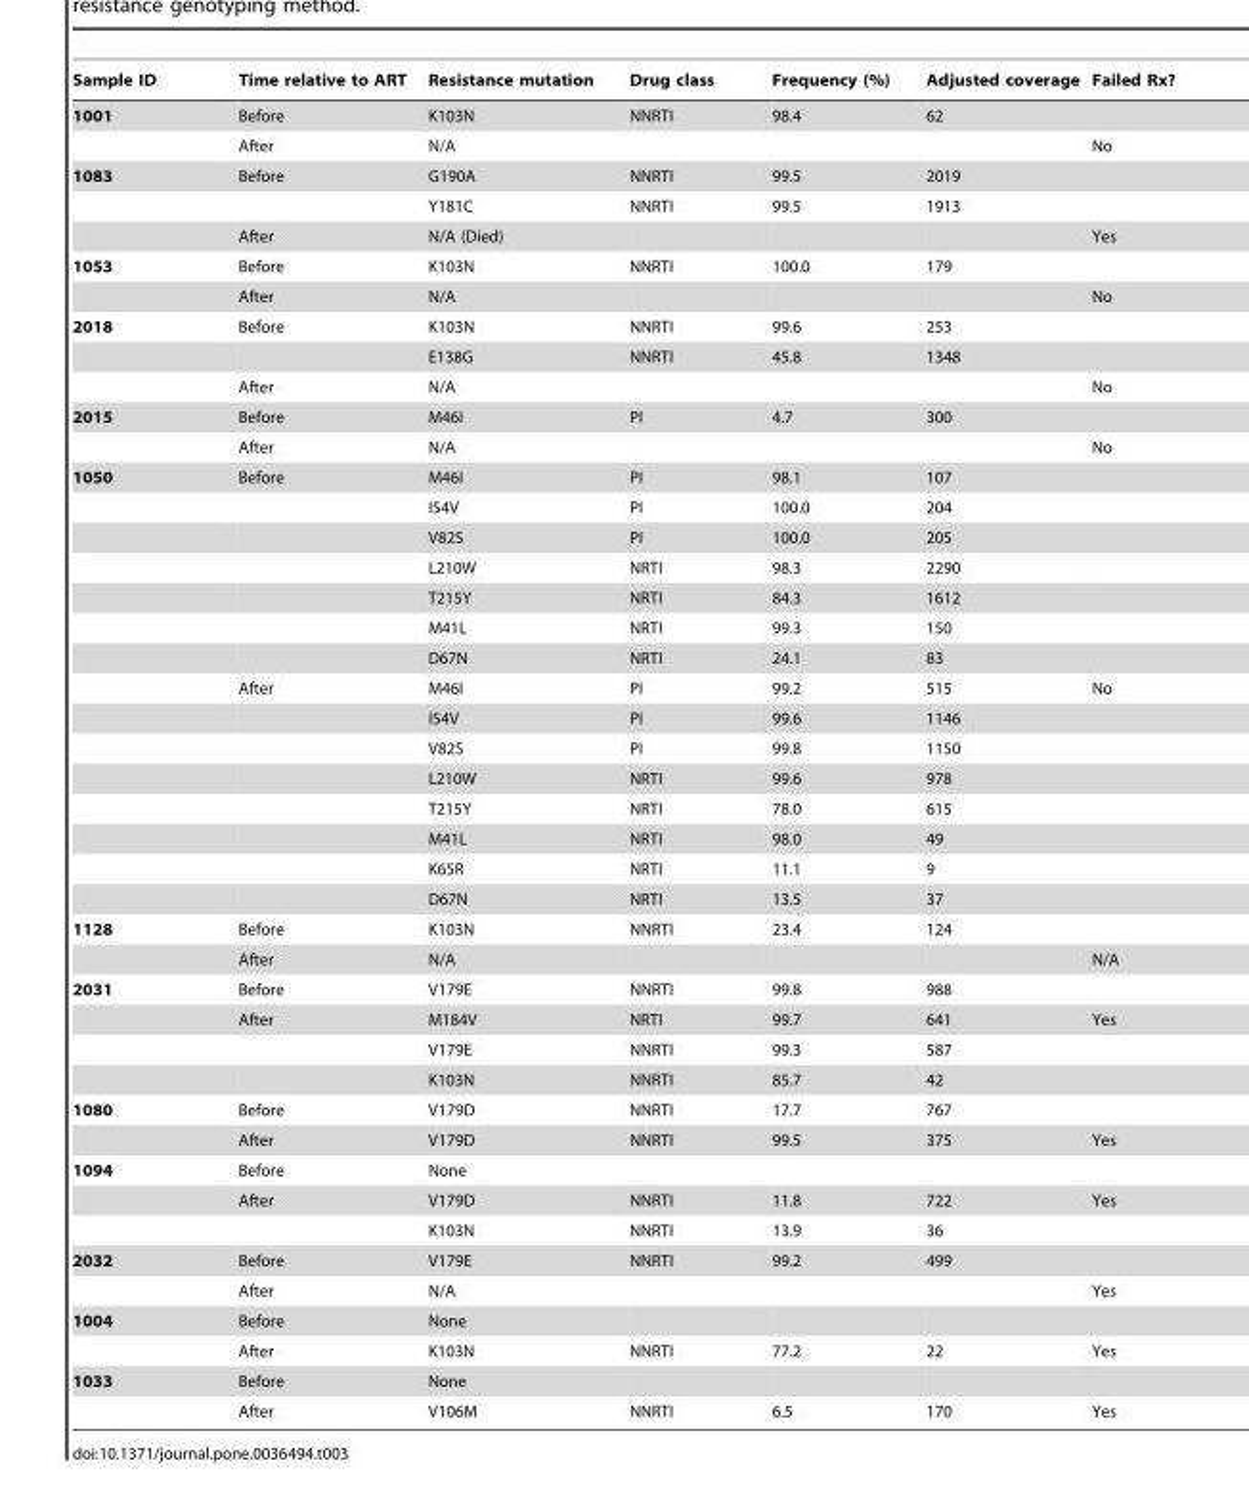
<table><thead><tr><td>Sample ID</td><td>Time relative to ART</td><td>Resistance mutation</td><td>Drug class</td><td>Frequency (%)</td><td>Adjusted coverage</td><td>Failed Rx?</td></tr></thead><tbody><tr><td rowspan="2">1001</td><td>Before</td><td>K103N</td><td>NNRTI</td><td>98.4</td><td>62</td><td></td></tr><tr><td>After</td><td>N/A</td><td></td><td></td><td></td><td>No</td></tr><tr><td rowspan="3">1083</td><td>Before</td><td>G190A</td><td>NNRTI</td><td>99.5</td><td>2019</td><td></td></tr><tr><td></td><td>Y181C</td><td>NNRTI</td><td>99.5</td><td>1913</td><td></td></tr><tr><td>After</td><td>N/A (Died)</td><td></td><td></td><td></td><td>Yes</td></tr><tr><td rowspan="2">1053</td><td>Before</td><td>K103N</td><td>NNRTI</td><td>100.0</td><td>179</td><td></td></tr><tr><td>After</td><td>N/A</td><td></td><td></td><td></td><td>No</td></tr><tr><td rowspan="3">2018</td><td>Before</td><td>K103N</td><td>NNRTI</td><td>99.6</td><td>253</td><td></td></tr><tr><td></td><td>E138G</td><td>NNRTI</td><td>45.8</td><td>1348</td><td></td></tr><tr><td>After</td><td>N/A</td><td></td><td></td><td></td><td>No</td></tr><tr><td rowspan="2">2015</td><td>Before</td><td>M46I</td><td>PI</td><td>4.7</td><td>300</td><td></td></tr><tr><td>After</td><td>N/A</td><td></td><td></td><td></td><td>No</td></tr><tr><td rowspan="15">1050</td><td>Before</td><td>M46I</td><td>PI</td><td>98.1</td><td>107</td><td></td></tr><tr><td></td><td>I54V</td><td>PI</td><td>100.0</td><td>204</td><td></td></tr><tr><td></td><td>V82S</td><td>PI</td><td>100.0</td><td>205</td><td></td></tr><tr><td></td><td>L210W</td><td>NRTI</td><td>98.3</td><td>2290</td><td></td></tr><tr><td></td><td>T215Y</td><td>NRTI</td><td>84.3</td><td>1612</td><td></td></tr><tr><td></td><td>M41L</td><td>NRTI</td><td>99.3</td><td>150</td><td></td></tr><tr><td></td><td>D67N</td><td>NRTI</td><td>24.1</td><td>83</td><td></td></tr><tr><td>After</td><td>M46I</td><td>PI</td><td>99.2</td><td>515</td><td>No</td></tr><tr><td></td><td>I54V</td><td>PI</td><td>99.6</td><td>1146</td><td></td></tr><tr><td></td><td>V82S</td><td>PI</td><td>99.8</td><td>1150</td><td></td></tr><tr><td></td><td>L210W</td><td>NRTI</td><td>99.6</td><td>978</td><td></td></tr><tr><td></td><td>T215Y</td><td>NRTI</td><td>78.0</td><td>615</td><td></td></tr><tr><td></td><td>M41L</td><td>NRTI</td><td>98.0</td><td>49</td><td></td></tr><tr><td></td><td>K65R</td><td>NRTI</td><td>11.1</td><td>9</td><td></td></tr><tr><td></td><td>D67N</td><td>NRTI</td><td>13.5</td><td>37</td><td></td></tr><tr><td rowspan="2">1128</td><td>Before</td><td>K103N</td><td>NNRTI</td><td>23.4</td><td>124</td><td></td></tr><tr><td>After</td><td>N/A</td><td></td><td></td><td></td><td>N/A</td></tr><tr><td rowspan="4">2031</td><td>Before</td><td>V179E</td><td>NNRTI</td><td>99.8</td><td>988</td><td></td></tr><tr><td>After</td><td>M184V</td><td>NRTI</td><td>99.7</td><td>641</td><td>Yes</td></tr><tr><td></td><td>V179E</td><td>NNRTI</td><td>99.3</td><td>587</td><td></td></tr><tr><td></td><td>K103N</td><td>NNRTI</td><td>85.7</td><td>42</td><td></td></tr><tr><td rowspan="2">1080</td><td>Before</td><td>V179D</td><td>NNRTI</td><td>17.7</td><td>767</td><td></td></tr><tr><td>After</td><td>V179D</td><td>NNRTI</td><td>99.5</td><td>375</td><td>Yes</td></tr><tr><td rowspan="3">1094</td><td>Before</td><td>None</td><td></td><td></td><td></td><td></td></tr><tr><td>After</td><td>V179D</td><td>NNRTI</td><td>11.8</td><td>722</td><td>Yes</td></tr><tr><td></td><td>K103N</td><td>NNRTI</td><td>13.9</td><td>36</td><td></td></tr><tr><td rowspan="2">2032</td><td>Before</td><td>V179E</td><td>NNRTI</td><td>99.2</td><td>499</td><td></td></tr><tr><td>After</td><td>N/A</td><td></td><td></td><td></td><td>Yes</td></tr><tr><td rowspan="2">1004</td><td>Before</td><td>None</td><td></td><td></td><td></td><td></td></tr><tr><td>After</td><td>K103N</td><td>NNRTI</td><td>77.2</td><td>22</td><td>Yes</td></tr><tr><td rowspan="2">1033</td><td>Before</td><td>None</td><td></td><td></td><td></td><td></td></tr><tr><td>After</td><td>V106M</td><td>NNRTI</td><td>6.5</td><td>170</td><td>Yes</td></tr></tbody></table>